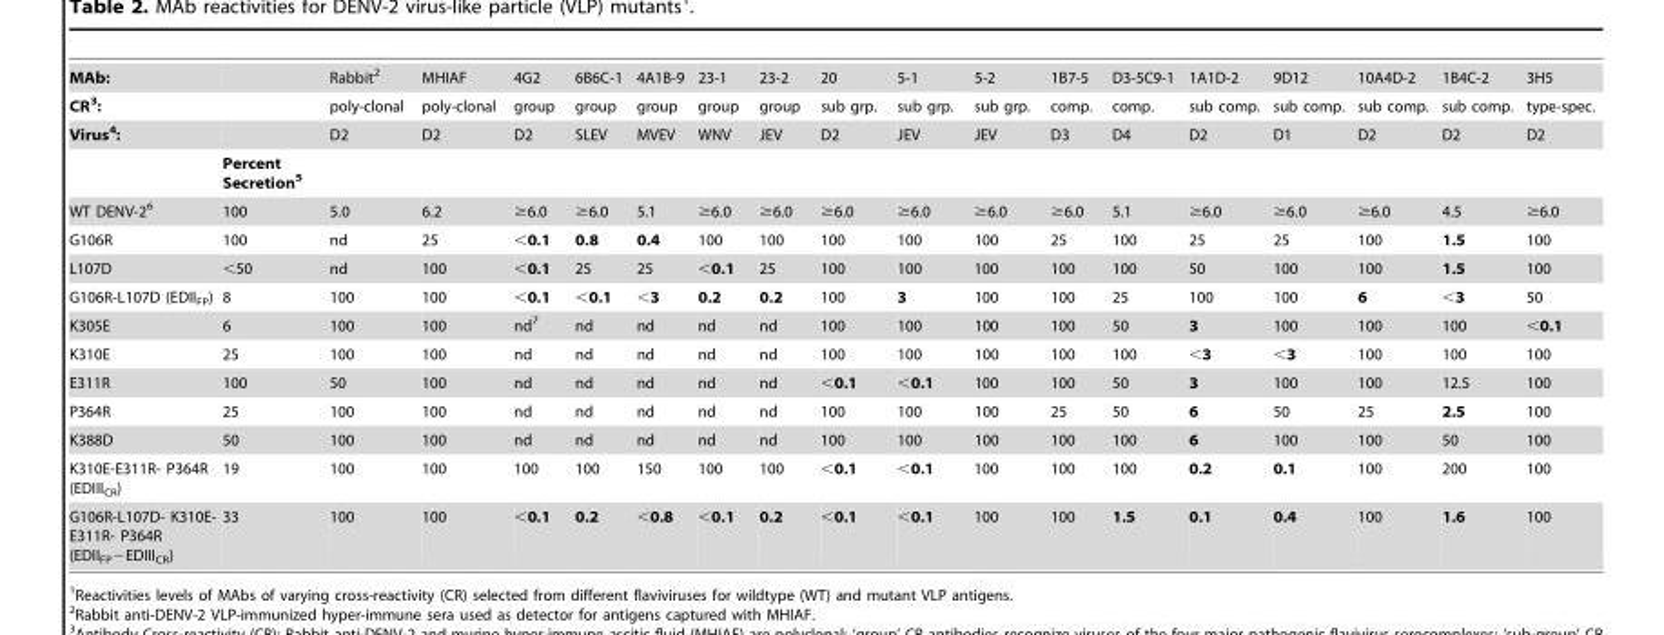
<table><tbody><tr><td>MAb:</td><td></td><td>Rabbit<sup>2</sup></td><td>MHIAF</td><td>4G2</td><td>6B6C-1</td><td>4A1B-9</td><td>23-1</td><td>23-2</td><td>20</td><td>5-1</td><td>5-2</td><td>1B7-5</td><td>D3-5C9-1</td><td>1A1D-2</td><td>9D12</td><td>10A4D-2</td><td>1B4C-2</td><td>3H5</td></tr><tr><td>CR3:</td><td></td><td>poly-clonal</td><td>poly-clonal</td><td>group</td><td>group</td><td>group</td><td>group</td><td>group</td><td>sub grp.</td><td>sub grp.</td><td>sub grp.</td><td>comp.</td><td>comp.</td><td>sub comp.</td><td>sub comp.</td><td>sub comp.</td><td>sub comp.</td><td>type-spec.</td></tr><tr><td rowspan="2">Virus4:</td><td></td><td>D2</td><td>D2</td><td>D2</td><td>SLEV</td><td>MVEV</td><td>WNV</td><td>JEV</td><td>D2</td><td>JEV</td><td>JEV</td><td>D3</td><td>D4</td><td>D2</td><td>D1</td><td>D2</td><td>D2</td><td>D2</td></tr><tr><td>Percent Secretion5</td><td></td><td></td><td></td><td></td><td></td><td></td><td></td><td></td><td></td><td></td><td></td><td></td><td></td><td></td><td></td><td></td><td></td></tr><tr><td>WT DENV-2<sup>6</sup></td><td>100</td><td>5.0</td><td>6.2</td><td>≥6.0</td><td>≥6.0</td><td>5.1</td><td>≥6.0</td><td>≥6.0</td><td>≥6.0</td><td>≥6.0</td><td>≥6.0</td><td>≥6.0</td><td>5.1</td><td>≥6.0</td><td>≥6.0</td><td>≥6.0</td><td>4.5</td><td>≥6.0</td></tr><tr><td>G106R</td><td>100</td><td>nd</td><td>25</td><td>&lt;0.1</td><td>0.8</td><td>0.4</td><td>100</td><td>100</td><td>100</td><td>100</td><td>100</td><td>25</td><td>100</td><td>25</td><td>25</td><td>100</td><td>1.5</td><td>100</td></tr><tr><td>L107D</td><td>&lt;50</td><td>nd</td><td>100</td><td>&lt;0.1</td><td>25</td><td>25</td><td>&lt;0.1</td><td>25</td><td>100</td><td>100</td><td>100</td><td>100</td><td>100</td><td>50</td><td>100</td><td>100</td><td>1.5</td><td>100</td></tr><tr><td>G106R-L107D (EDII<sub>FP</sub>)</td><td>8</td><td>100</td><td>100</td><td>&lt;0.1</td><td>&lt;0.1</td><td>&lt;3</td><td>0.2</td><td>0.2</td><td>100</td><td>3</td><td>100</td><td>100</td><td>25</td><td>100</td><td>100</td><td>6</td><td>&lt;3</td><td>50</td></tr><tr><td>K305E</td><td>6</td><td>100</td><td>100</td><td>nd<sup>7</sup></td><td>nd</td><td>nd</td><td>nd</td><td>nd</td><td>100</td><td>100</td><td>100</td><td>100</td><td>50</td><td>3</td><td>100</td><td>100</td><td>100</td><td>&lt;0.1</td></tr><tr><td>K310E</td><td>25</td><td>100</td><td>100</td><td>nd</td><td>nd</td><td>nd</td><td>nd</td><td>nd</td><td>100</td><td>100</td><td>100</td><td>100</td><td>100</td><td>&lt;3</td><td>&lt;3</td><td>100</td><td>100</td><td>100</td></tr><tr><td>E311R</td><td>100</td><td>50</td><td>100</td><td>nd</td><td>nd</td><td>nd</td><td>nd</td><td>nd</td><td>&lt;0.1</td><td>&lt;0.1</td><td>100</td><td>100</td><td>50</td><td>3</td><td>100</td><td>100</td><td>12.5</td><td>100</td></tr><tr><td>P364R</td><td>25</td><td>100</td><td>100</td><td>nd</td><td>nd</td><td>nd</td><td>nd</td><td>nd</td><td>100</td><td>100</td><td>100</td><td>25</td><td>50</td><td>6</td><td>50</td><td>25</td><td>2.5</td><td>100</td></tr><tr><td>K388D</td><td>50</td><td>100</td><td>100</td><td>nd</td><td>nd</td><td>nd</td><td>nd</td><td>nd</td><td>100</td><td>100</td><td>100</td><td>100</td><td>100</td><td>6</td><td>100</td><td>100</td><td>50</td><td>100</td></tr><tr><td>K310E-E311R- P364R (EDIII<sub>CR</sub>)</td><td>19</td><td>100</td><td>100</td><td>100</td><td>100</td><td>150</td><td>100</td><td>100</td><td>&lt;0.1</td><td>&lt;0.1</td><td>100</td><td>100</td><td>100</td><td>0.2</td><td>0.1</td><td>100</td><td>200</td><td>100</td></tr><tr><td>G106R-L107D- K310E- E311R- P364R (EDII<sub>FP</sub>−EDIII<sub>CR</sub>)</td><td>33</td><td>100</td><td>100</td><td>&lt;0.1</td><td>0.2</td><td>&lt;0.8</td><td>&lt;0.1</td><td>0.2</td><td>&lt;0.1</td><td>&lt;0.1</td><td>100</td><td>100</td><td>1.5</td><td>0.1</td><td>0.4</td><td>100</td><td>1.6</td><td>100</td></tr></tbody></table>